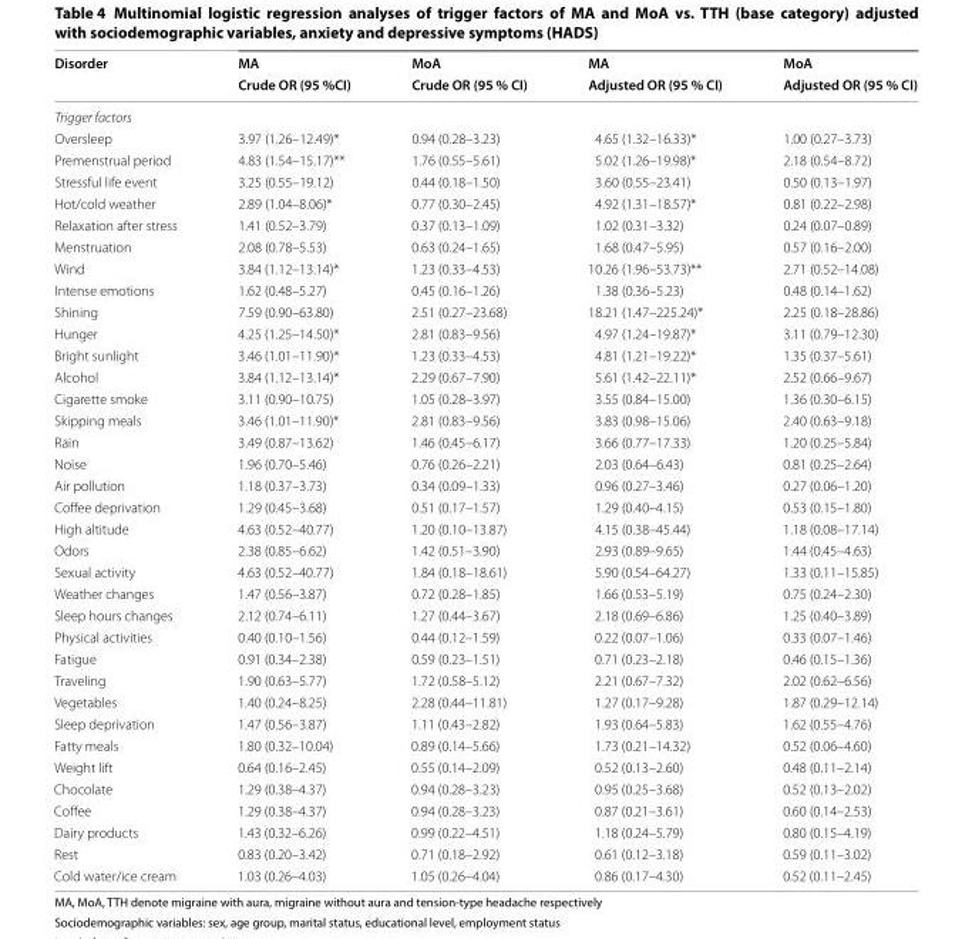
<table><thead><tr><td rowspan="2">Disorder</td><td rowspan="2">MA Crude OR (95 %CI)</td><td rowspan="2">MoA Crude OR (95 % CI)</td><td rowspan="2">MA Adjusted OR (95 % CI)</td><td rowspan="2">MoA Adjusted OR (95 % CI)</td></tr><tr></tr></thead><tbody><tr><td colspan="5">Trigger factors</td></tr><tr><td>Oversleep</td><td>3.97 (1.26–12.49)*</td><td>0.94 (0.28–3.23)</td><td>4.65 (1.32–16.33)*</td><td>1.00 (0.27–3.73)</td></tr><tr><td>Premenstrual period</td><td>4.83 (1.54–15.17)**</td><td>1.76 (0.55–5.61)</td><td>5.02 (1.26–19.98)*</td><td>2.18 (0.54–8.72)</td></tr><tr><td>Stressful life event</td><td>3.25 (0.55–19.12)</td><td>0.44 (0.18–1.50)</td><td>3.60 (0.55–23.41)</td><td>0.50 (0.13–1.97)</td></tr><tr><td>Hot/cold weather</td><td>2.89 (1.04–8.06)*</td><td>0.77 (0.30–2.45)</td><td>4.92 (1.31–18.57)*</td><td>0.81 (0.22–2.98)</td></tr><tr><td>Relaxation after stress</td><td>1.41 (0.52–3.79)</td><td>0.37 (0.13–1.09)</td><td>1.02 (0.31–3.32)</td><td>0.24 (0.07–0.89)</td></tr><tr><td>Menstruation</td><td>2.08 (0.78–5.53)</td><td>0.63 (0.24–1.65)</td><td>1.68 (0.47–5.95)</td><td>0.57 (0.16–2.00)</td></tr><tr><td>Wind</td><td>3.84 (1.12–13.14)*</td><td>1.23 (0.33–4.53)</td><td>10.26 (1.96–53.73)**</td><td>2.71 (0.52–14.08)</td></tr><tr><td>Intense emotions</td><td>1.62 (0.48–5.27)</td><td>0.45 (0.16–1.26)</td><td>1.38 (0.36–5.23)</td><td>0.48 (0.14–1.62)</td></tr><tr><td>Shining</td><td>7.59 (0.90–63.80)</td><td>2.51 (0.27–23.68)</td><td>18.21 (1.47–225.24)*</td><td>2.25 (0.18–28.86)</td></tr><tr><td>Hunger</td><td>4.25 (1.25–14.50)*</td><td>2.81 (0.83–9.56)</td><td>4.97 (1.24–19.87)*</td><td>3.11 (0.79–12.30)</td></tr><tr><td>Bright sunlight</td><td>3.46 (1.01–11.90)*</td><td>1.23 (0.33–4.53)</td><td>4.81 (1.21–19.22)*</td><td>1.35 (0.37–5.61)</td></tr><tr><td>Alcohol</td><td>3.84 (1.12–13.14)*</td><td>2.29 (0.67–7.90)</td><td>5.61 (1.42–22.11)*</td><td>2.52 (0.66–9.67)</td></tr><tr><td>Cigarette smoke</td><td>3.11 (0.90–10.75)</td><td>1.05 (0.28–3.97)</td><td>3.55 (0.84–15.00)</td><td>1.36 (0.30–6.15)</td></tr><tr><td>Skipping meals</td><td>3.46 (1.01–11.90)*</td><td>2.81 (0.83–9.56)</td><td>3.83 (0.98–15.06)</td><td>2.40 (0.63–9.18)</td></tr><tr><td>Rain</td><td>3.49 (0.87–13.62)</td><td>1.46 (0.45–6.17)</td><td>3.66 (0.77–17.33)</td><td>1.20 (0.25–5.84)</td></tr><tr><td>Noise</td><td>1.96 (0.70–5.46)</td><td>0.76 (0.26–2.21)</td><td>2.03 (0.64–6.43)</td><td>0.81 (0.25–2.64)</td></tr><tr><td>Air pollution</td><td>1.18 (0.37–3.73)</td><td>0.34 (0.09–1.33)</td><td>0.96 (0.27–3.46)</td><td>0.27 (0.06–1.20)</td></tr><tr><td>Coffee deprivation</td><td>1.29 (0.45–3.68)</td><td>0.51 (0.17–1.57)</td><td>1.29 (0.40–4.15)</td><td>0.53 (0.15–1.80)</td></tr><tr><td>High altitude</td><td>4.63 (0.52–40.77)</td><td>1.20 (0.10–13.87)</td><td>4.15 (0.38–45.44)</td><td>1.18 (0.08–17.14)</td></tr><tr><td>Odors</td><td>2.38 (0.85–6.62)</td><td>1.42 (0.51–3.90)</td><td>2.93 (0.89–9.65)</td><td>1.44 (0.45–4.63)</td></tr><tr><td>Sexual activity</td><td>4.63 (0.52–40.77)</td><td>1.84 (0.18–18.61)</td><td>5.90 (0.54–64.27)</td><td>1.33 (0.11–15.85)</td></tr><tr><td>Weather changes</td><td>1.47 (0.56–3.87)</td><td>0.72 (0.28–1.85)</td><td>1.66 (0.53–5.19)</td><td>0.75 (0.24–2.30)</td></tr><tr><td>Sleep hours changes</td><td>2.12 (0.74–6.11)</td><td>1.27 (0.44–3.67)</td><td>2.18 (0.69–6.86)</td><td>1.25 (0.40–3.89)</td></tr><tr><td>Physical activities</td><td>0.40 (0.10–1.56)</td><td>0.44 (0.12–1.59)</td><td>0.22 (0.07–1.06)</td><td>0.33 (0.07–1.46)</td></tr><tr><td>Fatigue</td><td>0.91 (0.34–2.38)</td><td>0.59 (0.23–1.51)</td><td>0.71 (0.23–2.18)</td><td>0.46 (0.15–1.36)</td></tr><tr><td>Traveling</td><td>1.90 (0.63–5.77)</td><td>1.72 (0.58–5.12)</td><td>2.21 (0.67–7.32)</td><td>2.02 (0.62–6.56)</td></tr><tr><td>Vegetables</td><td>1.40 (0.24–8.25)</td><td>2.28 (0.44–11.81)</td><td>1.27 (0.17–9.28)</td><td>1.87 (0.29–12.14)</td></tr><tr><td>Sleep deprivation</td><td>1.47 (0.56–3.87)</td><td>1.11 (0.43–2.82)</td><td>1.93 (0.64–5.83)</td><td>1.62 (0.55–4.76)</td></tr><tr><td>Fatty meals</td><td>1.80 (0.32–10.04)</td><td>0.89 (0.14–5.66)</td><td>1.73 (0.21–14.32)</td><td>0.52 (0.06–4.60)</td></tr><tr><td>Weight lift</td><td>0.64 (0.16–2.45)</td><td>0.55 (0.14–2.09)</td><td>0.52 (0.13–2.60)</td><td>0.48 (0.11–2.14)</td></tr><tr><td>Chocolate</td><td>1.29 (0.38–4.37)</td><td>0.94 (0.28–3.23)</td><td>0.95 (0.25–3.68)</td><td>0.52 (0.13–2.02)</td></tr><tr><td>Coffee</td><td>1.29 (0.38–4.37)</td><td>0.94 (0.28–3.23)</td><td>0.87 (0.21–3.61)</td><td>0.60 (0.14–2.53)</td></tr><tr><td>Dairy products</td><td>1.43 (0.32–6.26)</td><td>0.99 (0.22–4.51)</td><td>1.18 (0.24–5.79)</td><td>0.80 (0.15–4.19)</td></tr><tr><td>Rest</td><td>0.83 (0.20–3.42)</td><td>0.71 (0.18–2.92)</td><td>0.61 (0.12–3.18)</td><td>0.59 (0.11–3.02)</td></tr><tr><td>Cold water/ice cream</td><td>1.03 (0.26–4.03)</td><td>1.05 (0.26–4.04)</td><td>0.86 (0.17–4.30)</td><td>0.52 (0.11–2.45)</td></tr></tbody></table>